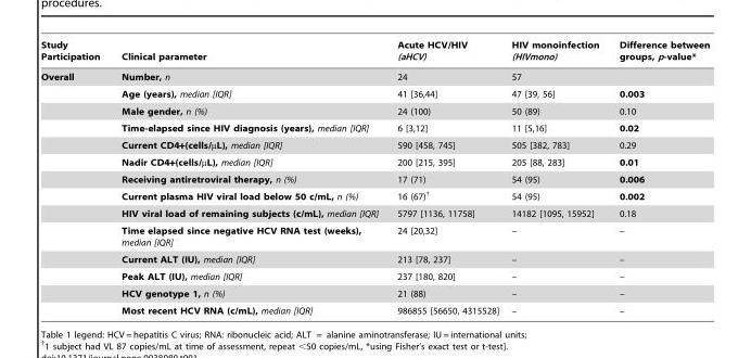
<table><thead><tr><td>Study Participation</td><td>Clinical parameter</td><td>Acute HCV/HIV (aHCV)</td><td>HIV monoinfection (HIVmono)</td><td>Difference between groups, p-value*</td></tr></thead><tbody><tr><td rowspan="14">Overall</td><td>Number, n</td><td>24</td><td>57</td><td></td></tr><tr><td>Age (years), median [IQR]</td><td>41 [36,44]</td><td>47 [39, 56]</td><td>0.003</td></tr><tr><td>Male gender, n (%)</td><td>24 (100)</td><td>50 (89)</td><td>0.10</td></tr><tr><td>Time-elapsed since HIV diagnosis (years), median [IQR]</td><td>6 [3,12]</td><td>11 [5,16]</td><td>0.02</td></tr><tr><td>Current CD4+(cells/µL), median [IQR]</td><td>590 [458, 745]</td><td>505 [382, 783]</td><td>0.29</td></tr><tr><td>Nadir CD4+(cells/µL), median [IQR]</td><td>200 [215, 395]</td><td>205 [88, 283]</td><td>0.01</td></tr><tr><td>Receiving antiretroviral therapy, n (%)</td><td>17 (71)</td><td>54 (95)</td><td>0.006</td></tr><tr><td>Current plasma HIV viral load below 50 c/mL, n (%)</td><td>16 (67)†</td><td>54 (95)</td><td>0.002</td></tr><tr><td>HIV viral load of remaining subjects (c/mL), median [IQR]</td><td>5797 [1136, 11758]</td><td>14182 [1095, 15952]</td><td>0.18</td></tr><tr><td>Time elapsed since negative HCV RNA test (weeks), median [IQR]</td><td>24 [20,32]</td><td>–</td><td>–</td></tr><tr><td>Current ALT (IU), median [IQR]</td><td>213 [78, 237]</td><td>–</td><td>–</td></tr><tr><td>Peak ALT (IU), median [IQR]</td><td>237 [180, 820]</td><td>–</td><td>–</td></tr><tr><td>HCV genotype 1, n (%)</td><td>21 (88)</td><td>–</td><td>–</td></tr><tr><td>Most recent HCV RNA (c/mL), median [IQR]</td><td>986855 [56650, 4315528]</td><td>–</td><td>–</td></tr></tbody></table>